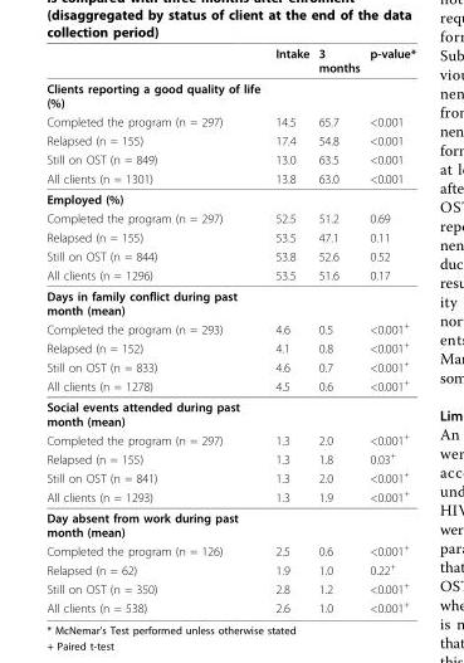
<table><thead><tr><td></td><td>Intake</td><td>3 months</td><td>p-value*</td></tr></thead><tbody><tr><td colspan="4">Clients reporting a good quality of life (%)</td></tr><tr><td>Completed the program (n = 297)</td><td>14.5</td><td>65.7</td><td>&lt;0.001</td></tr><tr><td>Relapsed (n = 155)</td><td>17.4</td><td>54.8</td><td>&lt;0.001</td></tr><tr><td>Still on OST (n = 849)</td><td>13.0</td><td>63.5</td><td>&lt;0.001</td></tr><tr><td>All clients (n = 1301)</td><td>13.8</td><td>63.0</td><td>&lt;0.001</td></tr><tr><td colspan="4">Employed (%)</td></tr><tr><td>Completed the program (n = 297)</td><td>52.5</td><td>51.2</td><td>0.69</td></tr><tr><td>Relapsed (n = 155)</td><td>53.5</td><td>47.1</td><td>0.11</td></tr><tr><td>Still on OST (n = 844)</td><td>53.8</td><td>52.6</td><td>0.52</td></tr><tr><td>All clients (n = 1296)</td><td>53.5</td><td>51.6</td><td>0.17</td></tr><tr><td colspan="4">Days in family conflict during past month (mean)</td></tr><tr><td>Completed the program (n = 293)</td><td>4.6</td><td>0.5</td><td>&lt;0.001<sup>+</sup></td></tr><tr><td>Relapsed (n = 152)</td><td>4.1</td><td>0.8</td><td>&lt;0.001<sup>+</sup></td></tr><tr><td>Still on OST (n = 833)</td><td>4.6</td><td>0.7</td><td>&lt;0.001<sup>+</sup></td></tr><tr><td>All clients (n = 1278)</td><td>4.5</td><td>0.6</td><td>&lt;0.001<sup>+</sup></td></tr><tr><td colspan="4">Social events attended during past month (mean)</td></tr><tr><td>Completed the program (n = 297)</td><td>1.3</td><td>2.0</td><td>&lt;0.001<sup>+</sup></td></tr><tr><td>Relapsed (n = 155)</td><td>1.3</td><td>1.8</td><td>0.03<sup>+</sup></td></tr><tr><td>Still on OST (n = 841)</td><td>1.3</td><td>2.0</td><td>&lt;0.001<sup>+</sup></td></tr><tr><td>All clients (n = 1293)</td><td>1.3</td><td>1.9</td><td>&lt;0.001<sup>+</sup></td></tr><tr><td colspan="4">Day absent from work during past month (mean)</td></tr><tr><td>Completed the program (n = 126)</td><td>2.5</td><td>0.6</td><td>&lt;0.001<sup>+</sup></td></tr><tr><td>Relapsed (n = 62)</td><td>1.9</td><td>1.0</td><td>0.22<sup>+</sup></td></tr><tr><td>Still on OST (n = 350)</td><td>2.8</td><td>1.2</td><td>&lt;0.001<sup>+</sup></td></tr><tr><td>All clients (n = 538)</td><td>2.6</td><td>1.0</td><td>&lt;0.001<sup>+</sup></td></tr></tbody></table>